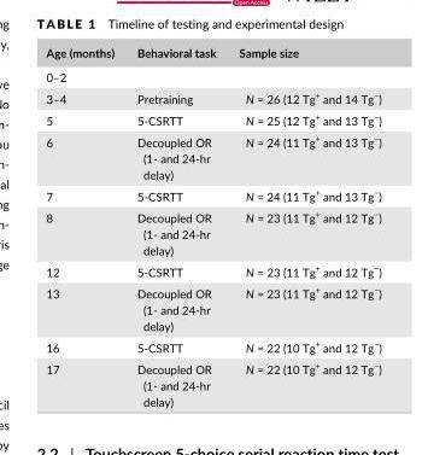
<table><thead><tr><td>Age (months)</td><td>Behavioral task</td><td>Sample size</td></tr></thead><tbody><tr><td colspan="3">0–2</td></tr><tr><td>3–4</td><td>Pretraining</td><td>N = 26 (12 Tg<sup>+</sup> and 14 Tg<sup>−</sup>)</td></tr><tr><td>5</td><td>5- CSRTT</td><td>N = 25 (12 Tg<sup>+</sup> and 13 Tg<sup>−</sup>)</td></tr><tr><td>6</td><td>Decoupled OR (1- and 24- hr delay)</td><td>N = 24 (11 Tg<sup>+</sup> and 13 Tg<sup>−</sup>)</td></tr><tr><td>7</td><td>5- CSRTT</td><td>N = 24 (11 Tg<sup>+</sup> and 13 Tg<sup>−</sup>)</td></tr><tr><td>8</td><td>Decoupled OR (1- and 24- hr delay)</td><td>N = 23 (11 Tg<sup>+</sup> and 12 Tg<sup>−</sup>)</td></tr><tr><td>12</td><td>5- CSRTT</td><td>N = 23 (11 Tg<sup>+</sup> and 12 Tg<sup>−</sup>)</td></tr><tr><td>13</td><td>Decoupled OR (1- and 24- hr delay)</td><td>N = 23 (11 Tg<sup>+</sup> and 12 Tg<sup>−</sup>)</td></tr><tr><td>16</td><td>5- CSRTT</td><td>N = 22 (10 Tg<sup>+</sup> and 12 Tg<sup>−</sup>)</td></tr><tr><td>17</td><td>Decoupled OR (1- and 24- hr delay)</td><td>N = 22 (10 Tg<sup>+</sup> and 12 Tg<sup>−</sup>)</td></tr></tbody></table>